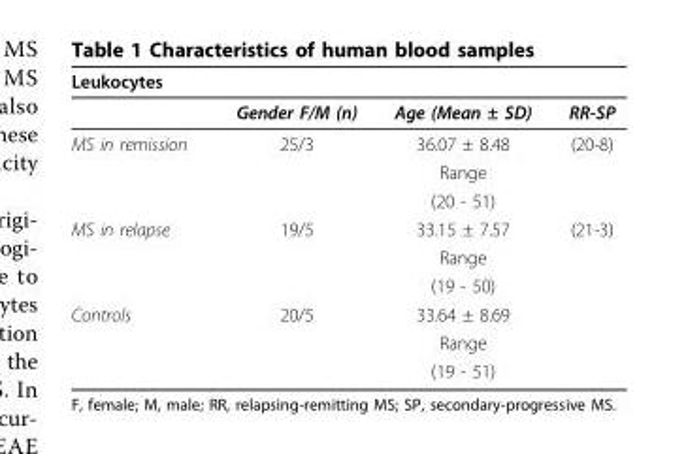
<table><thead><tr><td>Leukocytes</td><td></td><td></td><td></td></tr></thead><tbody><tr><td></td><td>Gender F/M (n)</td><td>Age (Mean ± SD)</td><td>RR-SP</td></tr><tr><td rowspan="3">MS in remission</td><td>25/3</td><td>36.07 ± 8.48</td><td>(20-8)</td></tr><tr><td></td><td>Range</td><td></td></tr><tr><td></td><td>(20 - 51)</td><td></td></tr><tr><td rowspan="3">MS in relapse</td><td>19/5</td><td>33.15 ± 7.57</td><td>(21-3)</td></tr><tr><td></td><td>Range</td><td></td></tr><tr><td></td><td>(19 - 50)</td><td></td></tr><tr><td rowspan="3">Controls</td><td>20/5</td><td>33.64 ± 8.69</td><td></td></tr><tr><td></td><td>Range</td><td></td></tr><tr><td></td><td>(19 - 51)</td><td></td></tr></tbody></table>